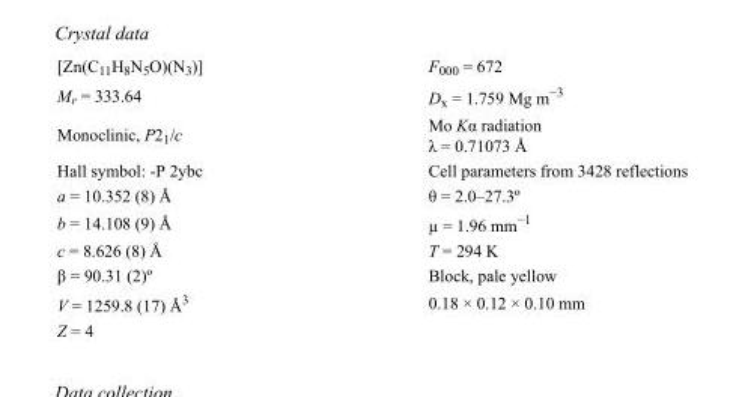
<table><tbody><tr><td>[Zn(C<sub>11</sub>H<sub>8</sub>N<sub>5</sub>O)(N<sub>3</sub>)]</td><td>F000 = 672</td></tr><tr><td>M<sub>r</sub> = 333.64</td><td>D<sub>x</sub> = 1.759 Mg m<sup>−3</sup></td></tr><tr><td>Monoclinic, P2<sub>1</sub>/c</td><td>Mo Kα radiation λ = 0.71073 Å</td></tr><tr><td>Hall symbol: -P 2ybc</td><td>Cell parameters from 3428 reflections</td></tr><tr><td>a = 10.352 (8) Å</td><td>θ = 2.0–27.3º</td></tr><tr><td>b = 14.108 (9) Å</td><td>µ = 1.96 mm<sup>−1</sup></td></tr><tr><td>c = 8.626 (8) Å</td><td>T = 294 K</td></tr><tr><td>β = 90.31 (2)º</td><td>Block, pale yellow</td></tr><tr><td>V = 1259.8 (17) Å<sup>3</sup></td><td>0.18 × 0.12 × 0.10 mm</td></tr><tr><td>Z = 4</td><td></td></tr></tbody></table>